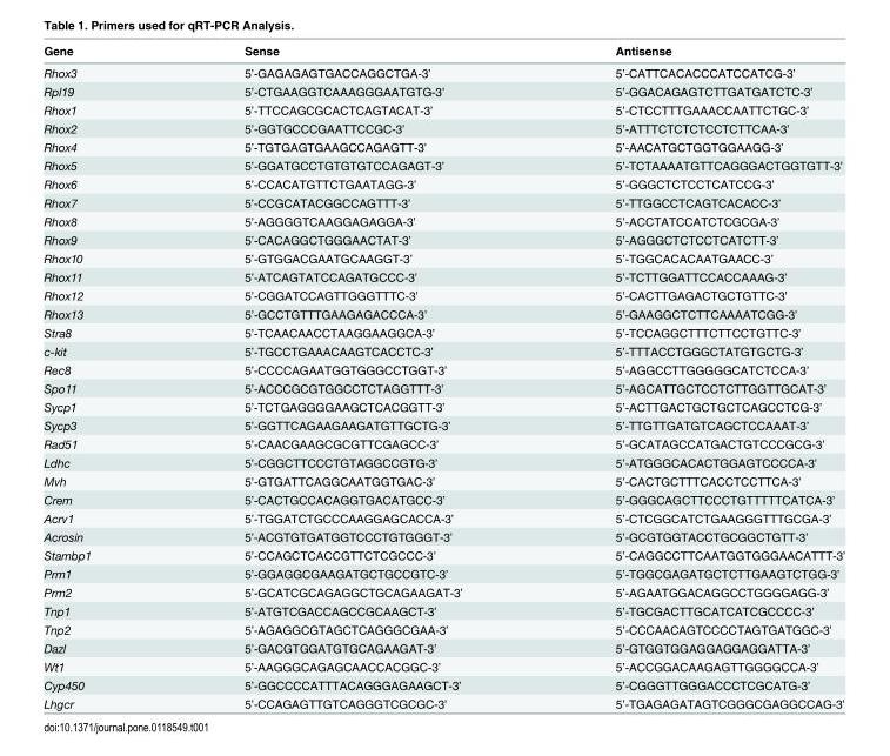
<table><thead><tr><td>Gene</td><td>Sense</td><td>Antisense</td></tr></thead><tbody><tr><td>Rhox3</td><td>5’-GAGAGAGTGACCAGGCTGA-3’</td><td>5’-CATTCACACCCATCCATCG-3’</td></tr><tr><td>Rpl19</td><td>5’-CTGAAGGTCAAAGGGAATGTG-3’</td><td>5’-GGACAGAGTCTTGATGATCTC-3’</td></tr><tr><td>Rhox1</td><td>5’-TTCCAGCGCACTCAGTACAT-3’</td><td>5’-CTCCTTTGAAACCAATTCTGC-3’</td></tr><tr><td>Rhox2</td><td>5’-GGTGCCCGAATTCCGC-3’</td><td>5’-ATTTCTCTCTCCTCTTCAA-3’</td></tr><tr><td>Rhox4</td><td>5’-TGTGAGTGAAGCCAGAGTT-3’</td><td>5’-AACATGCTGGTGGAAGG-3’</td></tr><tr><td>Rhox5</td><td>5’-GGATGCCTGTGTGTCCAGAGT-3’</td><td>5’-TCTAAAATGTTCAGGGACTGGTGTT-3’</td></tr><tr><td>Rhox6</td><td>5’-CCACATGTTCTGAATAGG-3’</td><td>5’-GGGCTCTCCTCATCCG-3’</td></tr><tr><td>Rhox7</td><td>5’-CCGCATACGGCCAGTTT-3’</td><td>5’-TTGGCCTCAGTCACACC-3’</td></tr><tr><td>Rhox8</td><td>5’-AGGGGTCAAGGAGAGGA-3’</td><td>5’-ACCTATCCATCTCGCGA-3’</td></tr><tr><td>Rhox9</td><td>5’-CACAGGCTGGGAACTAT-3’</td><td>5’-AGGGCTCTCCTCATCTT-3’</td></tr><tr><td>Rhox10</td><td>5’-GTGGACGAATGCAAGGT-3’</td><td>5’-TGGCACACAATGAACC-3’</td></tr><tr><td>Rhox11</td><td>5’-ATCAGTATCCAGATGCCC-3’</td><td>5’-TCTTGGATTCCACCAAAG-3’</td></tr><tr><td>Rhox12</td><td>5’-CGGATCCAGTTGGGTTTC-3’</td><td>5’-CACTTGAGACTGCTGTTC-3’</td></tr><tr><td>Rhox13</td><td>5’-GCCTGTTTGAAGAGACCCA-3’</td><td>5’-GAAGGCTCTTCAAAATCGG-3’</td></tr><tr><td>Stra8</td><td>5’-TCAACAACCTAAGGAAGGCA-3’</td><td>5’-TCCAGGCTTTCTTCCTGTTC-3’</td></tr><tr><td>c-kit</td><td>5’-TGCCTGAAACAAGTCACCTC-3’</td><td>5’-TTTACCTGGGCTATGTGCTG-3’</td></tr><tr><td>Rec8</td><td>5’-CCCCAGAATGGTGGGCCTGGT-3’</td><td>5’-AGGCCTTGGGGGCATCTCCA-3’</td></tr><tr><td>Spo11</td><td>5’-ACCCGCGTGGCCTCTAGGTTT-3’</td><td>5’-AGCATTGCTCCTCTTGGTTGCAT-3’</td></tr><tr><td>Sycp1</td><td>5’-TCTGAGGGGAAGCTCACGGTT-3’</td><td>5’-ACTTGACTGCTGCTCAGCCTCG-3’</td></tr><tr><td>Sycp3</td><td>5’-GGTTCAGAAGAAGATGTTGCTG-3’</td><td>5’-TTGTTGATGTCAGCTCCAAAT-3’</td></tr><tr><td>Rad51</td><td>5’-CAACGAAGCGCGTTCGAGCC-3’</td><td>5’-GCATAGCCATGACTGTCCCGCG-3’</td></tr><tr><td>Ldhc</td><td>5’-CGGCTTCCCTGTAGGCCGTG-3’</td><td>5’-ATGGGCACACTGGAGTCCCCA-3’</td></tr><tr><td>Mvh</td><td>5’-GTGATTCAGGCAATGGTGAC-3’</td><td>5’-CACTGCTTTCACCTCCTTCA-3’</td></tr><tr><td>Crem</td><td>5’-CACTGCCACAGGTGACATGCC-3’</td><td>5’-GGGCAGCTTCCCTGTTTTTCATCA-3’</td></tr><tr><td>Acrv1</td><td>5’-TGGATCTGCCCAAGGAGCACCA-3’</td><td>5’-CTCGGCATCTGAAGGGTTTGCGA-3’</td></tr><tr><td>Acrosin</td><td>5’-ACGTGTGATGGTCCCTGTGGGT-3’</td><td>5’-GCGTGGTACCTGCGGCTGTT-3’</td></tr><tr><td>Stambp1</td><td>5’-CCAGCTCACCGTTCTCGCCC-3’</td><td>5’-CAGGCCTTCAATGGTGGGAACATTT-3’</td></tr><tr><td>Prm1</td><td>5’-GGAGGCGAAGATGCTGCCGTC-3’</td><td>5’-TGGCGAGATGCTCTTGAAGTCTGG-3’</td></tr><tr><td>Prm2</td><td>5’-GCATCGCAGAGGCTGCAGAAGAT-3’</td><td>5’-AGAATGGACAGGCCTGGGGAGG-3’</td></tr><tr><td>Tnp1</td><td>5’-ATGTCGACCAGCCGCAAGCT-3’</td><td>5’-TGCGACTTGCATCATCGCCCC-3’</td></tr><tr><td>Tnp2</td><td>5’-AGAGGCGTAGCTCAGGGCGAA-3’</td><td>5’-CCCAACAGTCCCCTAGTGATGGC-3’</td></tr><tr><td>Dazl</td><td>5’-GACGTGGATGTGCAGAAGAT-3’</td><td>5’-GTGGTGGAGGAGGAGGATTA-3’</td></tr><tr><td>Wt1</td><td>5’-AAGGGCAGAGCAACCACGGC-3’</td><td>5’-ACCGGACAAGAGTTGGGGCCA-3’</td></tr><tr><td>Cyp450</td><td>5’-GGCCCCATTTACAGGGAGAAGCT-3’</td><td>5’-CGGGTTGGGACCCTCGCATG-3’</td></tr><tr><td>Lhgcr</td><td>5’-CCAGAGTTGTCAGGGTCGCGC-3’</td><td>5’-TGAGAGATAGTCGGGCGAGGCCAG-3’</td></tr></tbody></table>